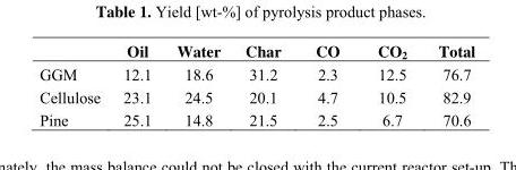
<table><thead><tr><td></td><td>Oil</td><td>Water</td><td>Char</td><td>CO</td><td>CO<sub>2</sub></td><td>Total</td></tr></thead><tbody><tr><td>GGM</td><td>12.1</td><td>18.6</td><td>31.2</td><td>2.3</td><td>12.5</td><td>76.7</td></tr><tr><td>Cellulose</td><td>23.1</td><td>24.5</td><td>20.1</td><td>4.7</td><td>10.5</td><td>82.9</td></tr><tr><td>Pine</td><td>25.1</td><td>14.8</td><td>21.5</td><td>2.5</td><td>6.7</td><td>70.6</td></tr></tbody></table>